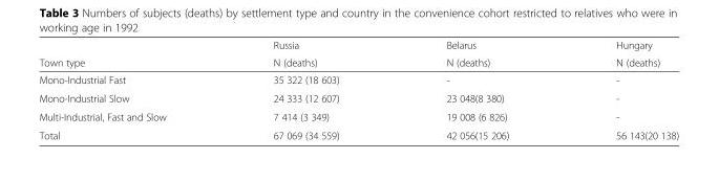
<table><thead><tr><td rowspan="2">Town type</td><td rowspan="2">Russia N (deaths)</td><td rowspan="2">Belarus N (deaths)</td><td rowspan="2">Hungary N (deaths)</td></tr><tr></tr></thead><tbody><tr><td>Mono-Industrial Fast</td><td>35 322 (18 603)</td><td>-</td><td>-</td></tr><tr><td>Mono-Industrial Slow</td><td>24 333 (12 607)</td><td>23 048(8 380)</td><td>-</td></tr><tr><td>Multi-Industrial, Fast and Slow</td><td>7 414 (3 349)</td><td>19 008 (6 826)</td><td>-</td></tr><tr><td>Total</td><td>67 069 (34 559)</td><td>42 056(15 206)</td><td>56 143(20 138)</td></tr></tbody></table>